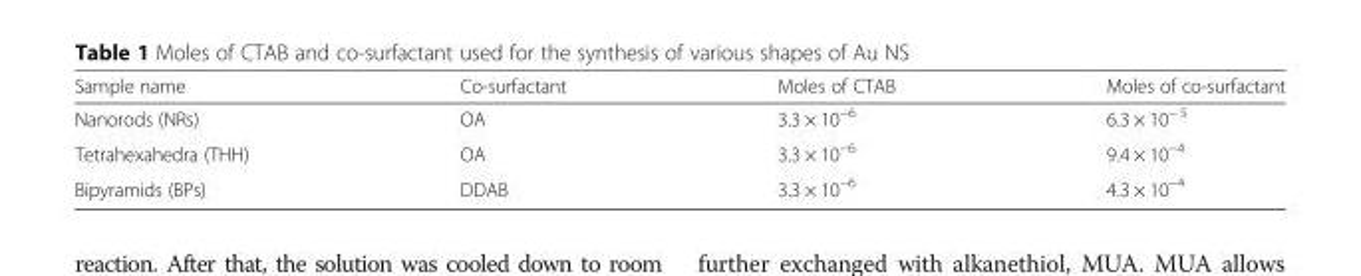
<table><thead><tr><td>Sample name</td><td>Co-surfactant</td><td>Moles of CTAB</td><td>Moles of co-surfactant</td></tr></thead><tbody><tr><td>Nanorods (NRs)</td><td>OA</td><td>3.3 × 10<sup>−6</sup></td><td>6.3 × 10<sup>− 5</sup></td></tr><tr><td>Tetrahexahedra (THH)</td><td>OA</td><td>3.3 × 10<sup>−6</sup></td><td>9.4 × 10<sup>−4</sup></td></tr><tr><td>Bipyramids (BPs)</td><td>DDAB</td><td>3.3 × 10<sup>−6</sup></td><td>4.3 × 10<sup>−4</sup></td></tr></tbody></table>